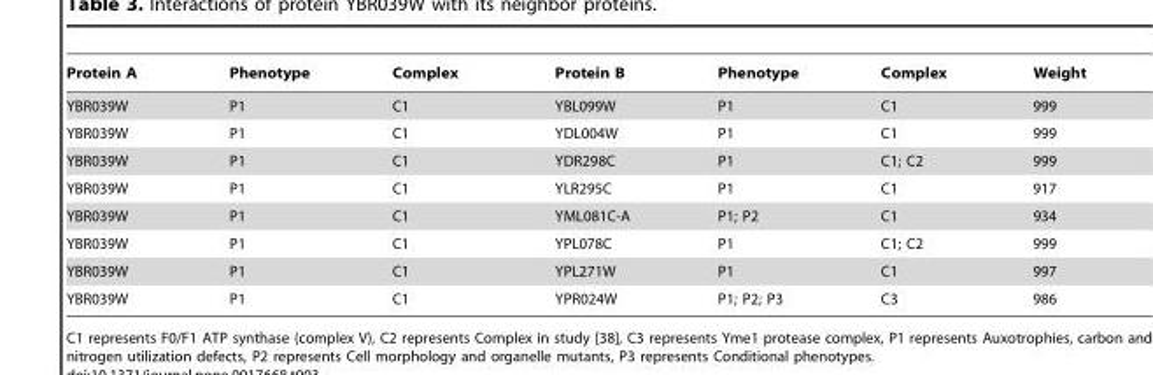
<table><thead><tr><td>Protein A</td><td>Phenotype</td><td>Complex</td><td>Protein B</td><td>Phenotype</td><td>Complex</td><td>Weight</td></tr></thead><tbody><tr><td>YBR039W</td><td>P1</td><td>C1</td><td>YBL099W</td><td>P1</td><td>C1</td><td>999</td></tr><tr><td>YBR039W</td><td>P1</td><td>C1</td><td>YDL004W</td><td>P1</td><td>C1</td><td>999</td></tr><tr><td>YBR039W</td><td>P1</td><td>C1</td><td>YDR298C</td><td>P1</td><td>C1; C2</td><td>999</td></tr><tr><td>YBR039W</td><td>P1</td><td>C1</td><td>YLR295C</td><td>P1</td><td>C1</td><td>917</td></tr><tr><td>YBR039W</td><td>P1</td><td>C1</td><td>YML081C-A</td><td>P1; P2</td><td>C1</td><td>934</td></tr><tr><td>YBR039W</td><td>P1</td><td>C1</td><td>YPL078C</td><td>P1</td><td>C1; C2</td><td>999</td></tr><tr><td>YBR039W</td><td>P1</td><td>C1</td><td>YPL271W</td><td>P1</td><td>C1</td><td>997</td></tr><tr><td>YBR039W</td><td>P1</td><td>C1</td><td>YPR024W</td><td>P1; P2; P3</td><td>C3</td><td>986</td></tr></tbody></table>